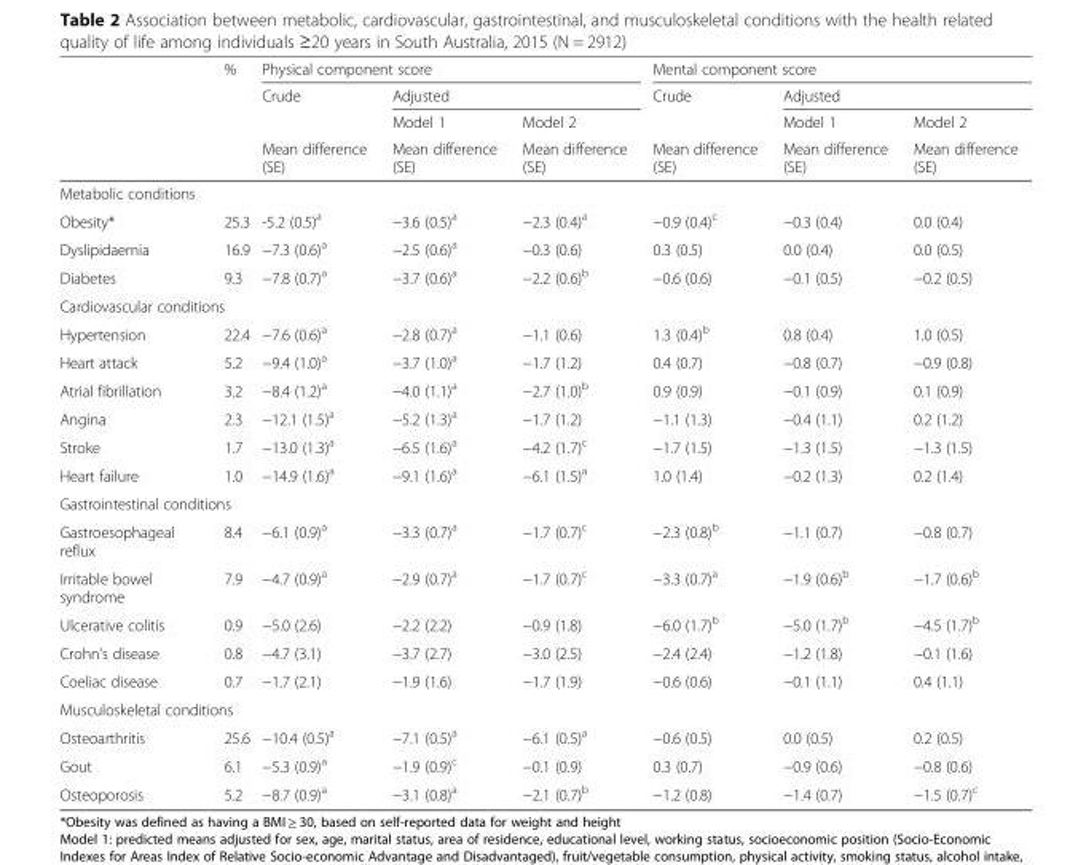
<table><thead><tr><td rowspan="4"></td><td rowspan="4">%</td><td colspan="3">Physical component score</td><td colspan="3">Mental component score</td></tr><tr><td rowspan="3">Crude Mean difference (SE)</td><td colspan="2">Adjusted</td><td rowspan="3">Crude Mean difference (SE)</td><td colspan="2">Adjusted</td></tr><tr><td rowspan="2">Model 1 Mean difference (SE)</td><td rowspan="2">Model 2 Mean difference (SE)</td><td rowspan="2">Model 1 Mean difference (SE)</td><td rowspan="2">Model 2 Mean difference (SE)</td></tr><tr></tr></thead><tbody><tr><td colspan="8">Metabolic conditions</td></tr><tr><td>Obesity*</td><td>25.3</td><td>-5.2 (0.5)<sup>a</sup></td><td>−3.6 (0.5)<sup>a</sup></td><td>−2.3 (0.4)<sup>a</sup></td><td>−0.9 (0.4)<sup>c</sup></td><td>−0.3 (0.4)</td><td>0.0 (0.4)</td></tr><tr><td>Dyslipidaemia</td><td>16.9</td><td>−7.3 (0.6)<sup>a</sup></td><td>−2.5 (0.6)<sup>a</sup></td><td>−0.3 (0.6)</td><td>0.3 (0.5)</td><td>0.0 (0.4)</td><td>0.0 (0.5)</td></tr><tr><td>Diabetes</td><td>9.3</td><td>−7.8 (0.7)<sup>a</sup></td><td>−3.7 (0.6)<sup>a</sup></td><td>−2.2 (0.6)<sup>b</sup></td><td>−0.6 (0.6)</td><td>−0.1 (0.5)</td><td>−0.2 (0.5)</td></tr><tr><td colspan="8">Cardiovascular conditions</td></tr><tr><td>Hypertension</td><td>22.4</td><td>−7.6 (0.6)<sup>a</sup></td><td>−2.8 (0.7)<sup>a</sup></td><td>−1.1 (0.6)</td><td>1.3 (0.4)<sup>b</sup></td><td>0.8 (0.4)</td><td>1.0 (0.5)</td></tr><tr><td>Heart attack</td><td>5.2</td><td>−9.4 (1.0)<sup>a</sup></td><td>−3.7 (1.0)<sup>a</sup></td><td>−1.7 (1.2)</td><td>0.4 (0.7)</td><td>−0.8 (0.7)</td><td>−0.9 (0.8)</td></tr><tr><td>Atrial fibrillation</td><td>3.2</td><td>−8.4 (1.2)<sup>a</sup></td><td>−4.0 (1.1)<sup>a</sup></td><td>−2.7 (1.0)<sup>b</sup></td><td>0.9 (0.9)</td><td>−0.1 (0.9)</td><td>0.1 (0.9)</td></tr><tr><td>Angina</td><td>2.3</td><td>−12.1 (1.5)<sup>a</sup></td><td>−5.2 (1.3)<sup>a</sup></td><td>−1.7 (1.2)</td><td>−1.1 (1.3)</td><td>−0.4 (1.1)</td><td>0.2 (1.2)</td></tr><tr><td>Stroke</td><td>1.7</td><td>−13.0 (1.3)<sup>a</sup></td><td>−6.5 (1.6)<sup>a</sup></td><td>−4.2 (1.7)<sup>c</sup></td><td>−1.7 (1.5)</td><td>−1.3 (1.5)</td><td>−1.3 (1.5)</td></tr><tr><td>Heart failure</td><td>1.0</td><td>−14.9 (1.6)<sup>a</sup></td><td>−9.1 (1.6)<sup>a</sup></td><td>−6.1 (1.5)<sup>a</sup></td><td>1.0 (1.4)</td><td>−0.2 (1.3)</td><td>0.2 (1.4)</td></tr><tr><td colspan="8">Gastrointestinal conditions</td></tr><tr><td>Gastroesophageal reflux</td><td>8.4</td><td>−6.1 (0.9)<sup>a</sup></td><td>−3.3 (0.7)<sup>a</sup></td><td>−1.7 (0.7)<sup>c</sup></td><td>−2.3 (0.8)<sup>b</sup></td><td>−1.1 (0.7)</td><td>−0.8 (0.7)</td></tr><tr><td>Irritable bowel syndrome</td><td>7.9</td><td>−4.7 (0.9)<sup>a</sup></td><td>−2.9 (0.7)<sup>a</sup></td><td>−1.7 (0.7)<sup>c</sup></td><td>−3.3 (0.7)<sup>a</sup></td><td>−1.9 (0.6)<sup>b</sup></td><td>−1.7 (0.6)<sup>b</sup></td></tr><tr><td>Ulcerative colitis</td><td>0.9</td><td>−5.0 (2.6)</td><td>−2.2 (2.2)</td><td>−0.9 (1.8)</td><td>−6.0 (1.7)<sup>b</sup></td><td>−5.0 (1.7)<sup>b</sup></td><td>−4.5 (1.7)<sup>b</sup></td></tr><tr><td>Crohn’s disease</td><td>0.8</td><td>−4.7 (3.1)</td><td>−3.7 (2.7)</td><td>−3.0 (2.5)</td><td>−2.4 (2.4)</td><td>−1.2 (1.8)</td><td>−0.1 (1.6)</td></tr><tr><td>Coeliac disease</td><td>0.7</td><td>−1.7 (2.1)</td><td>−1.9 (1.6)</td><td>−1.7 (1.9)</td><td>−0.6 (0.6)</td><td>−0.1 (1.1)</td><td>0.4 (1.1)</td></tr><tr><td colspan="8">Musculoskeletal conditions</td></tr><tr><td>Osteoarthritis</td><td>25.6</td><td>−10.4 (0.5)<sup>a</sup></td><td>−7.1 (0.5)<sup>a</sup></td><td>−6.1 (0.5)<sup>a</sup></td><td>−0.6 (0.5)</td><td>0.0 (0.5)</td><td>0.2 (0.5)</td></tr><tr><td>Gout</td><td>6.1</td><td>−5.3 (0.9)<sup>a</sup></td><td>−1.9 (0.9)<sup>c</sup></td><td>−0.1 (0.9)</td><td>0.3 (0.7)</td><td>−0.9 (0.6)</td><td>−0.8 (0.6)</td></tr><tr><td>Osteoporosis</td><td>5.2</td><td>−8.7 (0.9)<sup>a</sup></td><td>−3.1 (0.8)<sup>a</sup></td><td>−2.1 (0.7)<sup>b</sup></td><td>−1.2 (0.8)</td><td>−1.4 (0.7)</td><td>−1.5 (0.7)<sup>c</sup></td></tr></tbody></table>